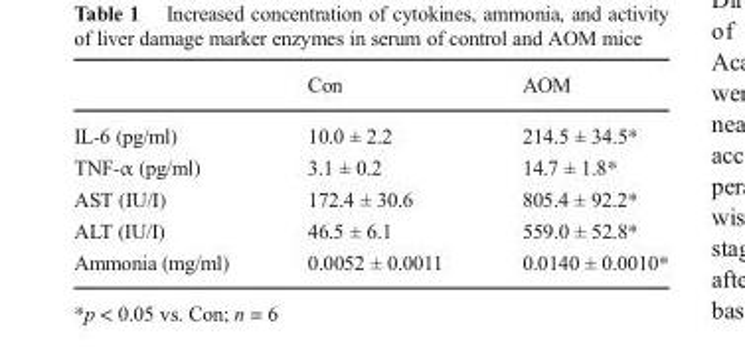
<table><thead><tr><td></td><td>Con</td><td>AOM</td></tr></thead><tbody><tr><td>IL-6 (pg/ml)</td><td>10.0 ± 2.2</td><td>214.5 ± 34.5*</td></tr><tr><td>TNF-α (pg/ml)</td><td>3.1 ± 0.2</td><td>14.7 ± 1.8*</td></tr><tr><td>AST (IU/I)</td><td>172.4 ± 30.6</td><td>805.4 ± 92.2*</td></tr><tr><td>ALT (IU/I)</td><td>46.5 ± 6.1</td><td>559.0 ± 52.8*</td></tr><tr><td>Ammonia (mg/ml)</td><td>0.0052 ± 0.0011</td><td>0.0140 ± 0.0010*</td></tr></tbody></table>